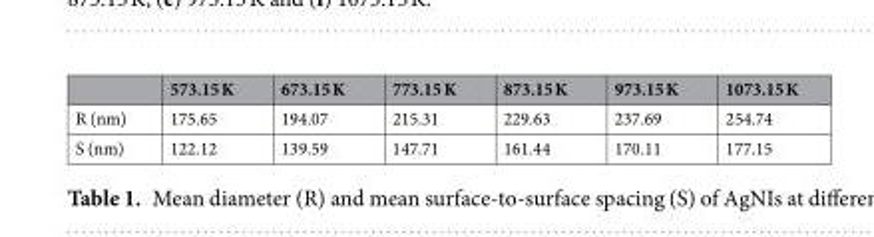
<table><thead><tr><td></td><td>573.15 K</td><td>673.15 K</td><td>773.15 K</td><td>873.15 K</td><td>973.15 K</td><td>1073.15 K</td></tr></thead><tbody><tr><td>R (nm)</td><td>175.65</td><td>194.07</td><td>215.31</td><td>229.63</td><td>237.69</td><td>254.74</td></tr><tr><td>S (nm)</td><td>122.12</td><td>139.59</td><td>147.71</td><td>161.44</td><td>170.11</td><td>177.15</td></tr></tbody></table>